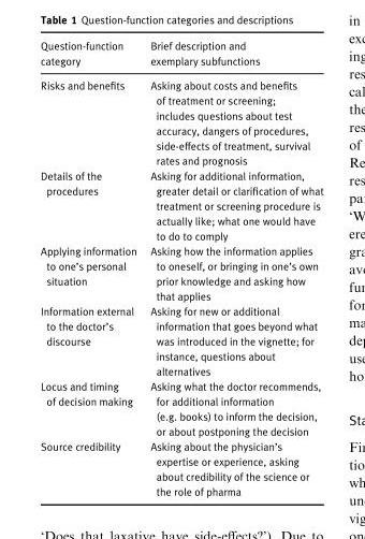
<table><thead><tr><td>Question-function category</td><td>Brief description and exemplary subfunctions</td></tr></thead><tbody><tr><td>Risks and benefits</td><td>Asking about costs and benefits of treatment or screening; includes questions about test accuracy, dangers of procedures, side-effects of treatment, survival rates and prognosis</td></tr><tr><td>Details of the procedures</td><td>Asking for additional information, greater detail or clarification of what treatment or screening procedure is actually like; what one would have to do to comply</td></tr><tr><td>Applying information to one’s personal situation</td><td>Asking how the information applies to oneself, or bringing in one’s own prior knowledge and asking how that applies</td></tr><tr><td>Information external to the doctor’s discourse</td><td>Asking for new or additional information that goes beyond what was introduced in the vignette; for instance, questions about alternatives</td></tr><tr><td>Locus and timing of decision making</td><td>Asking what the doctor recommends, for additional information (e.g. books) to inform the decision, or about postponing the decision</td></tr><tr><td>Source credibility</td><td>Asking about the physician’s expertise or experience, asking about credibility of the science or the role of pharma</td></tr></tbody></table>